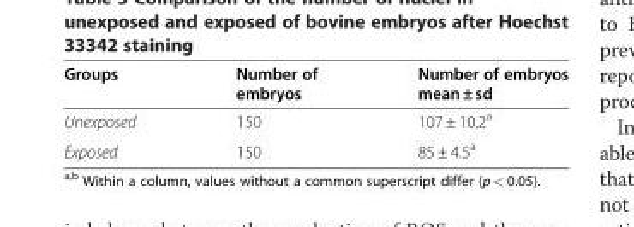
<table><thead><tr><td>Groups</td><td>Number of embryos</td><td>Number of embryos mean ± sd</td></tr></thead><tbody><tr><td>Unexposed</td><td>150</td><td>107 ± 10.2<sup>a</sup></td></tr><tr><td>Exposed</td><td>150</td><td>85 ± 4.5<sup>a</sup></td></tr></tbody></table>